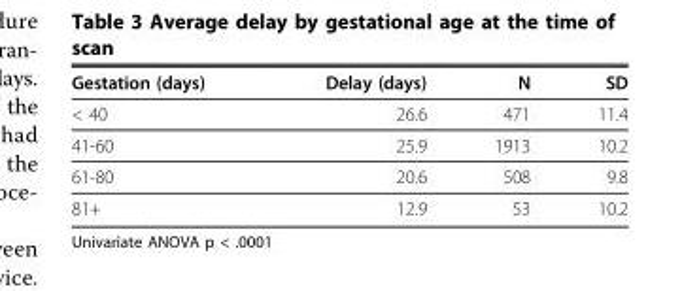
<table><tbody><tr><td>Gestation (days)</td><td>Delay (days)</td><td>N</td><td>SD</td></tr><tr><td>&lt; 40</td><td>26.6</td><td>471</td><td>11.4</td></tr><tr><td>41-60</td><td>25.9</td><td>1913</td><td>10.2</td></tr><tr><td>61-80</td><td>20.6</td><td>508</td><td>9.8</td></tr><tr><td>81+</td><td>12.9</td><td>53</td><td>10.2</td></tr></tbody></table>